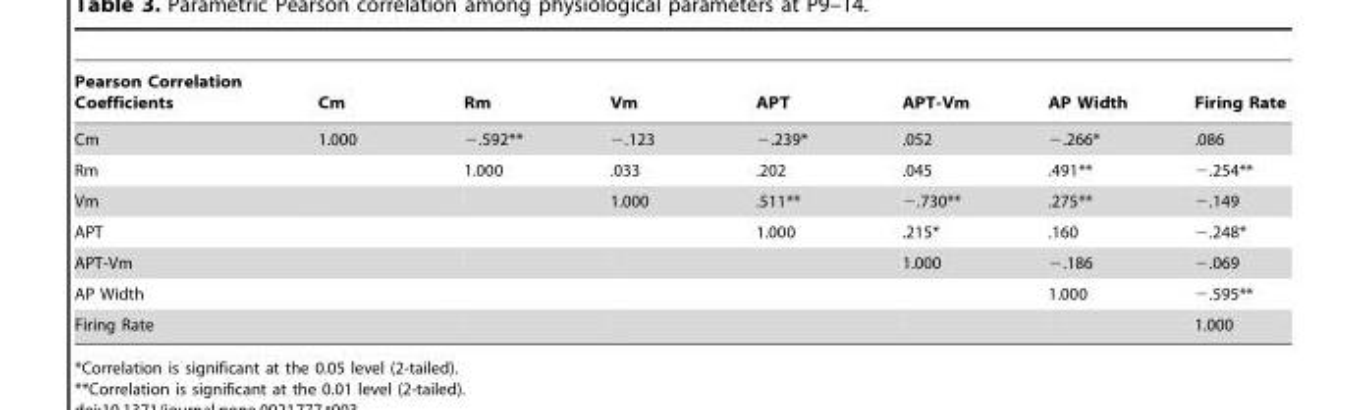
<table><thead><tr><td>Pearson Correlation Coefficients</td><td>Cm</td><td>Rm</td><td>Vm</td><td>APT</td><td>APT-Vm</td><td>AP Width</td><td>Firing Rate</td></tr></thead><tbody><tr><td>Cm</td><td>1.000</td><td>−.592**</td><td>−.123</td><td>−.239*</td><td>.052</td><td>−.266*</td><td>.086</td></tr><tr><td>Rm</td><td></td><td>1.000</td><td>.033</td><td>.202</td><td>.045</td><td>.491**</td><td>−.254**</td></tr><tr><td>Vm</td><td></td><td></td><td>1.000</td><td>.511**</td><td>−.730**</td><td>.275**</td><td>−.149</td></tr><tr><td>APT</td><td></td><td></td><td></td><td>1.000</td><td>.215*</td><td>.160</td><td>−.248*</td></tr><tr><td>APT-Vm</td><td></td><td></td><td></td><td></td><td>1.000</td><td>−.186</td><td>−.069</td></tr><tr><td>AP Width</td><td></td><td></td><td></td><td></td><td></td><td>1.000</td><td>−.595**</td></tr><tr><td>Firing Rate</td><td></td><td></td><td></td><td></td><td></td><td></td><td>1.000</td></tr></tbody></table>